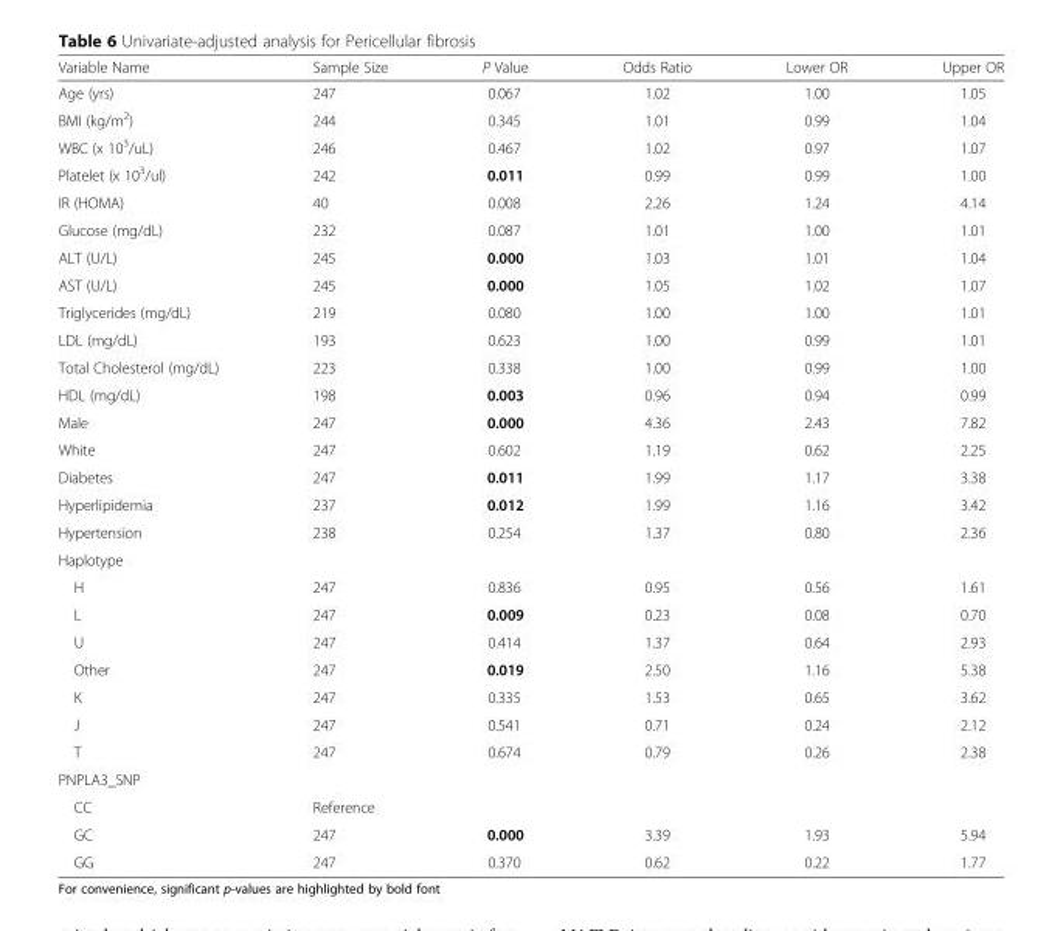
<table><thead><tr><td>Variable Name</td><td>Sample Size</td><td>P Value</td><td>Odds Ratio</td><td>Lower OR</td><td>Upper OR</td></tr></thead><tbody><tr><td>Age (yrs)</td><td>247</td><td>0.067</td><td>1.02</td><td>1.00</td><td>1.05</td></tr><tr><td>BMI (kg/m<sup>2</sup>)</td><td>244</td><td>0.345</td><td>1.01</td><td>0.99</td><td>1.04</td></tr><tr><td>WBC (x 10<sup>3</sup>/uL)</td><td>246</td><td>0.467</td><td>1.02</td><td>0.97</td><td>1.07</td></tr><tr><td>Platelet (x 10<sup>3</sup>/ul)</td><td>242</td><td>0.011</td><td>0.99</td><td>0.99</td><td>1.00</td></tr><tr><td>IR (HOMA)</td><td>40</td><td>0.008</td><td>2.26</td><td>1.24</td><td>4.14</td></tr><tr><td>Glucose (mg/dL)</td><td>232</td><td>0.087</td><td>1.01</td><td>1.00</td><td>1.01</td></tr><tr><td>ALT (U/L)</td><td>245</td><td>0.000</td><td>1.03</td><td>1.01</td><td>1.04</td></tr><tr><td>AST (U/L)</td><td>245</td><td>0.000</td><td>1.05</td><td>1.02</td><td>1.07</td></tr><tr><td>Triglycerides (mg/dL)</td><td>219</td><td>0.080</td><td>1.00</td><td>1.00</td><td>1.01</td></tr><tr><td>LDL (mg/dL)</td><td>193</td><td>0.623</td><td>1.00</td><td>0.99</td><td>1.01</td></tr><tr><td>Total Cholesterol (mg/dL)</td><td>223</td><td>0.338</td><td>1.00</td><td>0.99</td><td>1.00</td></tr><tr><td>HDL (mg/dL)</td><td>198</td><td>0.003</td><td>0.96</td><td>0.94</td><td>0.99</td></tr><tr><td>Male</td><td>247</td><td>0.000</td><td>4.36</td><td>2.43</td><td>7.82</td></tr><tr><td>White</td><td>247</td><td>0.602</td><td>1.19</td><td>0.62</td><td>2.25</td></tr><tr><td>Diabetes</td><td>247</td><td>0.011</td><td>1.99</td><td>1.17</td><td>3.38</td></tr><tr><td>Hyperlipidemia</td><td>237</td><td>0.012</td><td>1.99</td><td>1.16</td><td>3.42</td></tr><tr><td>Hypertension</td><td>238</td><td>0.254</td><td>1.37</td><td>0.80</td><td>2.36</td></tr><tr><td colspan="6">Haplotype</td></tr><tr><td>H</td><td>247</td><td>0.836</td><td>0.95</td><td>0.56</td><td>1.61</td></tr><tr><td>L</td><td>247</td><td>0.009</td><td>0.23</td><td>0.08</td><td>0.70</td></tr><tr><td>U</td><td>247</td><td>0.414</td><td>1.37</td><td>0.64</td><td>2.93</td></tr><tr><td>Other</td><td>247</td><td>0.019</td><td>2.50</td><td>1.16</td><td>5.38</td></tr><tr><td>K</td><td>247</td><td>0.335</td><td>1.53</td><td>0.65</td><td>3.62</td></tr><tr><td>J</td><td>247</td><td>0.541</td><td>0.71</td><td>0.24</td><td>2.12</td></tr><tr><td>T</td><td>247</td><td>0.674</td><td>0.79</td><td>0.26</td><td>2.38</td></tr><tr><td colspan="6">PNPLA3_SNP</td></tr><tr><td>CC</td><td colspan="5">Reference</td></tr><tr><td>GC</td><td>247</td><td>0.000</td><td>3.39</td><td>1.93</td><td>5.94</td></tr><tr><td>GG</td><td>247</td><td>0.370</td><td>0.62</td><td>0.22</td><td>1.77</td></tr></tbody></table>